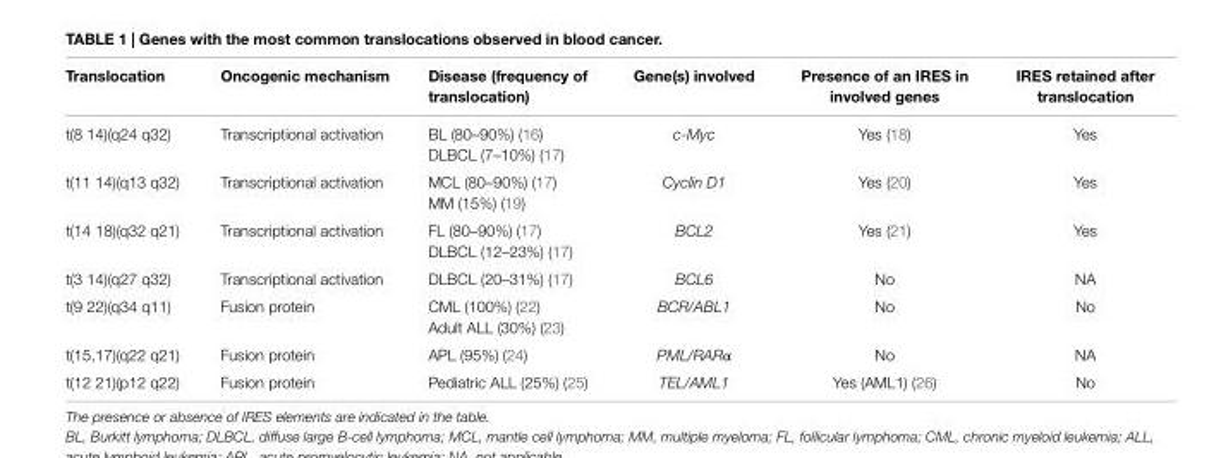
<table><thead><tr><td>Translocation</td><td>Oncogenic mechanism</td><td>Disease (frequency of translocation)</td><td>Gene(s) involved</td><td>Presence of an iReS in involved genes</td><td>iReS retained after translocation</td></tr></thead><tbody><tr><td rowspan="2">t(8 14)(q24 q32)</td><td>Transcriptional activation</td><td>BL (80–90%) (16)</td><td>c-Myc</td><td>Yes (18)</td><td>Yes</td></tr><tr><td></td><td>DLBCL (7–10%) (17)</td><td></td><td></td><td></td></tr><tr><td rowspan="2">t(11 14)(q13 q32)</td><td>Transcriptional activation</td><td>MCL (80–90%) (17)</td><td>Cyclin D1</td><td>Yes (20)</td><td>Yes</td></tr><tr><td></td><td>MM (15%) (19)</td><td></td><td></td><td></td></tr><tr><td rowspan="2">t(14 18)(q32 q21)</td><td>Transcriptional activation</td><td>FL (80–90%) (17)</td><td>BCL2</td><td>Yes (21)</td><td>Yes</td></tr><tr><td></td><td>DLBCL (12–23%) (17)</td><td></td><td></td><td></td></tr><tr><td>t(3 14)(q27 q32)</td><td>Transcriptional activation</td><td>DLBCL (20–31%) (17)</td><td>BCL6</td><td>No</td><td>NA</td></tr><tr><td rowspan="2">t(9 22)(q34 q11)</td><td>Fusion protein</td><td>CML (100%) (22)</td><td>BCR/ABL1</td><td>No</td><td>No</td></tr><tr><td></td><td>Adult ALL (30%) (23)</td><td></td><td></td><td></td></tr><tr><td>t(15,17)(q22 q21)</td><td>Fusion protein</td><td>APL (95%) (24)</td><td>PML/RARα</td><td>No</td><td>NA</td></tr><tr><td>t(12 21)(p12 q22)</td><td>Fusion protein</td><td>Pediatric ALL (25%) (25)</td><td>TEL/AML1</td><td>Yes (AML1) (26)</td><td>No</td></tr></tbody></table>